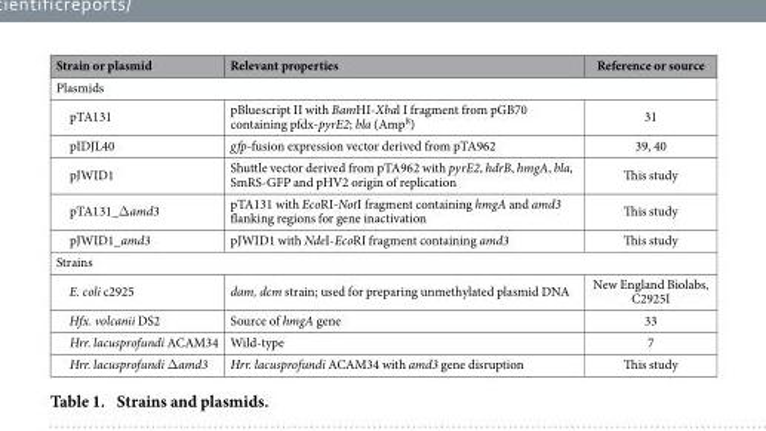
<table><thead><tr><td>Strain or plasmid</td><td>Relevant properties</td><td>Reference or source</td></tr></thead><tbody><tr><td colspan="3">Plasmids</td></tr><tr><td>pTA131</td><td>pBluescript II with BamHI-Xbal I fragment from pGB70 containing pfdx-pyrE2; bla (Amp<sup>R</sup>)</td><td>31</td></tr><tr><td>pIDJL40</td><td>gfp-fusion expression vector derived from pTA962</td><td>39, 40</td></tr><tr><td>pJWID1</td><td>Shuttle vector derived from pTA962 with pyrE2, hdrB, hmgA, bla, SmRS-GFP and pHV2 origin of replication</td><td>This study</td></tr><tr><td>pTA131_Δamd3</td><td>pTA131 with EcoRI-NotI fragment containing hmgA and amd3 flanking regions for gene inactivation</td><td>This study</td></tr><tr><td>pJWID1_amd3</td><td>pJWID1 with NdeI-EcoRI fragment containing amd3</td><td>This study</td></tr><tr><td colspan="3">Strains</td></tr><tr><td>E. coli c2925</td><td>dam, dcm strain; used for preparing unmethylated plasmid DNA</td><td>New England Biolabs, C2925I</td></tr><tr><td>Hfx. volcanii DS2</td><td>Source of hmgA gene</td><td>33</td></tr><tr><td>Hrr. lacusprofundi ACAM34</td><td>Wild-type</td><td>7</td></tr><tr><td>Hrr. lacusprofundi Δ amd3</td><td>Hrr. lacusprofundi ACAM34 with amd3 gene disruption</td><td>This study</td></tr></tbody></table>